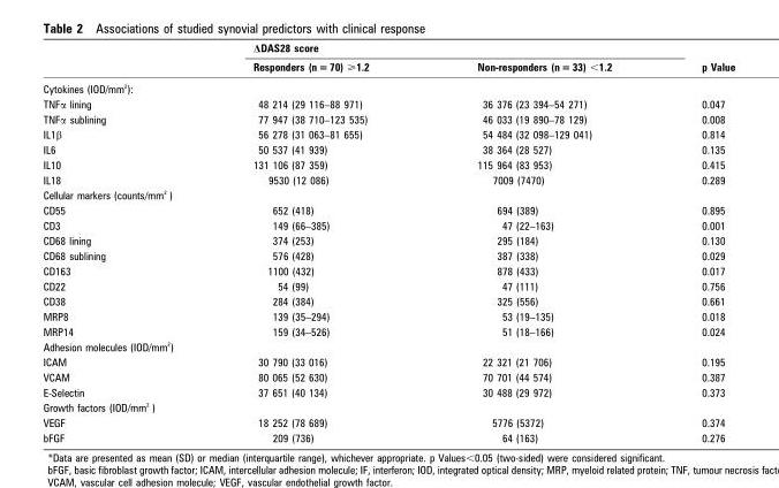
<table><thead><tr><td rowspan="2"></td><td colspan="2">ΔDAS28 score</td><td rowspan="2">p Value</td></tr><tr><td>Responders (n = 70) &gt;1.2</td><td>Non-responders (n = 33) &lt;1.2</td></tr></thead><tbody><tr><td colspan="4">Cytokines (IOD/mm <sup>2</sup>):</td></tr><tr><td>TNFα lining</td><td>48 214 (29 116–88 971)</td><td>36 376 (23 394–54 271)</td><td>0.047</td></tr><tr><td>TNFα sublining</td><td>77 947 (38 710–123 535)</td><td>46 033 (19 890–78 129)</td><td>0.008</td></tr><tr><td>IL1β</td><td>56 278 (31 063–81 655)</td><td>54 484 (32 098–129 041)</td><td>0.814</td></tr><tr><td>IL6</td><td>50 537 (41 939)</td><td>38 364 (28 527)</td><td>0.135</td></tr><tr><td>IL10</td><td>131 106 (87 359)</td><td>115 964 (83 953)</td><td>0.415</td></tr><tr><td>IL18</td><td>9530 (12 086)</td><td>7009 (7470)</td><td>0.289</td></tr><tr><td colspan="4">Cellular markers (counts/mm <sup>2</sup> )</td></tr><tr><td>CD55</td><td>652 (418)</td><td>694 (389)</td><td>0.895</td></tr><tr><td>CD3</td><td>149 (66–385)</td><td>47 (22–163)</td><td>0.001</td></tr><tr><td>CD68 lining</td><td>374 (253)</td><td>295 (184)</td><td>0.130</td></tr><tr><td>CD68 sublining</td><td>576 (428)</td><td>387 (338)</td><td>0.029</td></tr><tr><td>CD163</td><td>1100 (432)</td><td>878 (433)</td><td>0.017</td></tr><tr><td>CD22</td><td>54 (99)</td><td>47 (111)</td><td>0.756</td></tr><tr><td>CD38</td><td>284 (384)</td><td>325 (556)</td><td>0.661</td></tr><tr><td>MRP8</td><td>139 (35–294)</td><td>53 (19–135)</td><td>0.018</td></tr><tr><td>MRP14</td><td>159 (34–526)</td><td>51 (18–166)</td><td>0.024</td></tr><tr><td colspan="4">Adhesion molecules (IOD/mm <sup>2</sup>)</td></tr><tr><td>ICAM</td><td>30 790 (33 016)</td><td>22 321 (21 706)</td><td>0.195</td></tr><tr><td>VCAM</td><td>80 065 (52 630)</td><td>70 701 (44 574)</td><td>0.387</td></tr><tr><td>E-Selectin</td><td>37 651 (40 134)</td><td>30 488 (29 972)</td><td>0.373</td></tr><tr><td colspan="4">Growth factors (IOD/mm <sup>2</sup> )</td></tr><tr><td>VEGF</td><td>18 252 (78 689)</td><td>5776 (5372)</td><td>0.374</td></tr><tr><td>bFGF</td><td>209 (736)</td><td>64 (163)</td><td>0.276</td></tr></tbody></table>